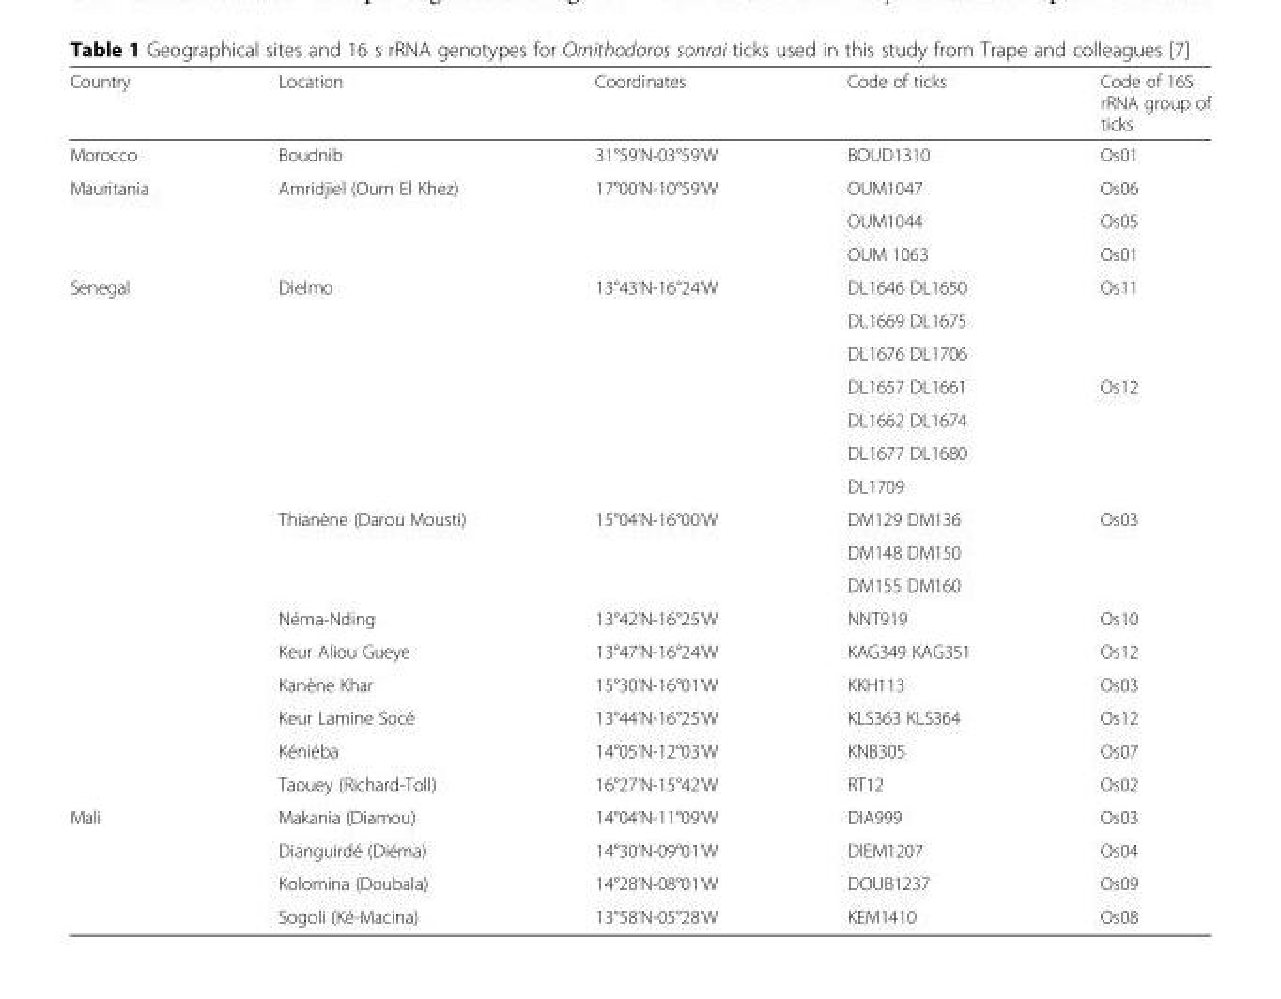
<table><thead><tr><td>Country</td><td>Location</td><td>Coordinates</td><td>Code of ticks</td><td>Code of 16S rRNA group of ticks</td></tr></thead><tbody><tr><td>Morocco</td><td>Boudnib</td><td>31°59’N-03°59’W</td><td>BOUD1310</td><td>Os01</td></tr><tr><td rowspan="3">Mauritania</td><td>Amridjiel (Oum El Khez)</td><td>17°00’N-10°59’W</td><td>OUM1047</td><td>Os06</td></tr><tr><td></td><td></td><td>OUM1044</td><td>Os05</td></tr><tr><td></td><td></td><td>OUM 1063</td><td>Os01</td></tr><tr><td rowspan="16">Senegal</td><td rowspan="3">Dielmo</td><td rowspan="3">13°43’N-16°24’W</td><td>DL1646 DL1650</td><td rowspan="3">Os11</td></tr><tr><td>DL1669 DL1675</td></tr><tr><td>DL1676 DL1706</td></tr><tr><td rowspan="4"></td><td rowspan="4"></td><td>DL1657 DL1661</td><td rowspan="4">Os12</td></tr><tr><td>DL1662 DL1674</td></tr><tr><td>DL1677 DL1680</td></tr><tr><td>DL1709</td></tr><tr><td rowspan="3">Thianène (Darou Mousti)</td><td rowspan="3">15°04’N-16°00’W</td><td>DM129 DM136</td><td rowspan="3">Os03</td></tr><tr><td>DM148 DM150</td></tr><tr><td>DM155 DM160</td></tr><tr><td>Néma-Nding</td><td>13°42’N-16°25’W</td><td>NNT919</td><td>Os10</td></tr><tr><td>Keur Aliou Gueye</td><td>13°47’N-16°24’W</td><td>KAG349 KAG351</td><td>Os12</td></tr><tr><td>Kanène Khar</td><td>15°30’N-16°01’W</td><td>KKH113</td><td>Os03</td></tr><tr><td>Keur Lamine Socé</td><td>13°44’N-16°25’W</td><td>KLS363 KLS364</td><td>Os12</td></tr><tr><td>Kéniéba</td><td>14°05’N-12°03’W</td><td>KNB305</td><td>Os07</td></tr><tr><td>Taouey (Richard-Toll)</td><td>16°27’N-15°42’W</td><td>RT12</td><td>Os02</td></tr><tr><td rowspan="4">Mali</td><td>Makania (Diamou)</td><td>14°04’N-11°09’W</td><td>DIA999</td><td>Os03</td></tr><tr><td>Dianguirdé (Diéma)</td><td>14°30’N-09°01’W</td><td>DIEM1207</td><td>Os04</td></tr><tr><td>Kolomina (Doubala)</td><td>14°28’N-08°01’W</td><td>DOUB1237</td><td>Os09</td></tr><tr><td>Sogoli (Ké-Macina)</td><td>13°58’N-05°28’W</td><td>KEM1410</td><td>Os08</td></tr></tbody></table>